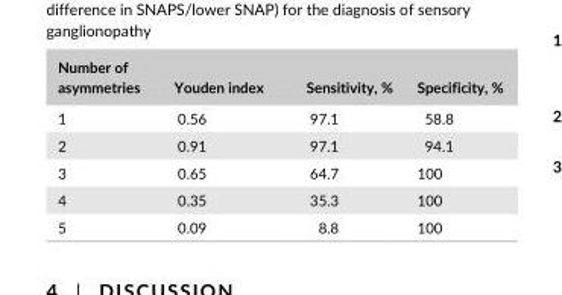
<table><thead><tr><td>Number of asymmetries</td><td>Youden index</td><td>Sensitivity, %</td><td>Specificity, %</td></tr></thead><tbody><tr><td>1</td><td>0.56</td><td>97.1</td><td>58.8</td></tr><tr><td>2</td><td>0.91</td><td>97.1</td><td>94.1</td></tr><tr><td>3</td><td>0.65</td><td>64.7</td><td>100</td></tr><tr><td>4</td><td>0.35</td><td>35.3</td><td>100</td></tr><tr><td>5</td><td>0.09</td><td>8.8</td><td>100</td></tr></tbody></table>